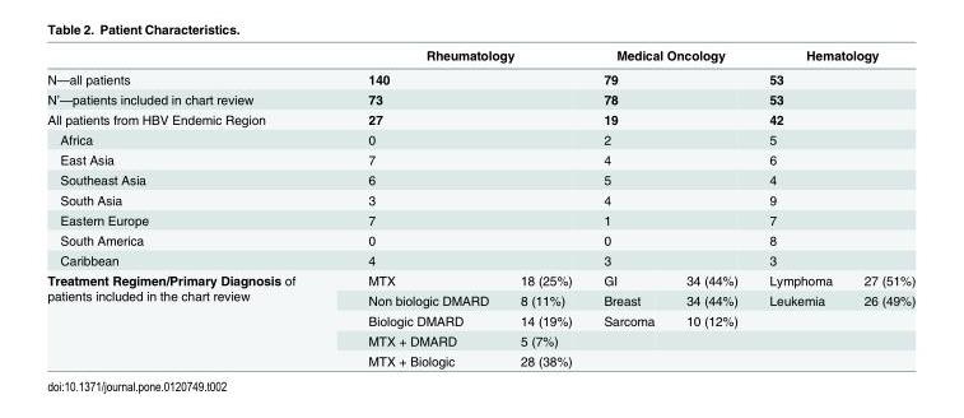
<table><thead><tr><td></td><td colspan="2">Rheumatology</td><td colspan="2">Medical Oncology</td><td colspan="2">Hematology</td></tr></thead><tbody><tr><td>N—all patients</td><td colspan="2">140</td><td colspan="2">79</td><td colspan="2">53</td></tr><tr><td>N’—patients included in chart review</td><td colspan="2">73</td><td colspan="2">78</td><td colspan="2">53</td></tr><tr><td>All patients from HBV Endemic Region</td><td colspan="2">27</td><td colspan="2">19</td><td colspan="2">42</td></tr><tr><td>Africa</td><td colspan="2">0</td><td colspan="2">2</td><td colspan="2">5</td></tr><tr><td>East Asia</td><td colspan="2">7</td><td colspan="2">4</td><td colspan="2">6</td></tr><tr><td>Southeast Asia</td><td colspan="2">6</td><td colspan="2">5</td><td colspan="2">4</td></tr><tr><td>South Asia</td><td colspan="2">3</td><td colspan="2">4</td><td colspan="2">9</td></tr><tr><td>Eastern Europe</td><td colspan="2">7</td><td colspan="2">1</td><td colspan="2">7</td></tr><tr><td>South America</td><td colspan="2">0</td><td colspan="2">0</td><td colspan="2">8</td></tr><tr><td>Caribbean</td><td colspan="2">4</td><td colspan="2">3</td><td colspan="2">3</td></tr><tr><td rowspan="5">Treatment Regimen/Primary Diagnosis of patients included in the chart review</td><td>MTX</td><td>18 (25%)</td><td>GI</td><td>34 (44%)</td><td>Lymphoma</td><td>27 (51%)</td></tr><tr><td>Non biologic DMARD</td><td>8 (11%)</td><td>Breast</td><td>34 (44%)</td><td>Leukemia</td><td>26 (49%)</td></tr><tr><td>Biologic DMARD</td><td>14 (19%)</td><td>Sarcoma</td><td>10 (12%)</td><td></td><td></td></tr><tr><td>MTX + DMARD</td><td>5 (7%)</td><td></td><td></td><td></td><td></td></tr><tr><td>MTX + Biologic</td><td>28 (38%)</td><td></td><td></td><td></td><td></td></tr></tbody></table>